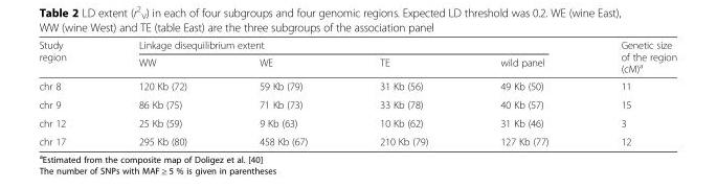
<table><thead><tr><td rowspan="2">Study region</td><td colspan="4">Linkage disequilibrium extent</td><td rowspan="2">Genetic size of the region (cM)<sup>a</sup></td></tr><tr><td>WW</td><td>WE</td><td>TE</td><td>wild panel</td></tr></thead><tbody><tr><td>chr 8</td><td>120 Kb (72)</td><td>59 Kb (79)</td><td>31 Kb (56)</td><td>49 Kb (50)</td><td>11</td></tr><tr><td>chr 9</td><td>86 Kb (75)</td><td>71 Kb (73)</td><td>33 Kb (78)</td><td>40 Kb (57)</td><td>15</td></tr><tr><td>chr 12</td><td>25 Kb (59)</td><td>9 Kb (63)</td><td>10 Kb (62)</td><td>31 Kb (46)</td><td>3</td></tr><tr><td>chr 17</td><td>295 Kb (80)</td><td>458 Kb (67)</td><td>210 Kb (79)</td><td>127 Kb (77)</td><td>12</td></tr></tbody></table>